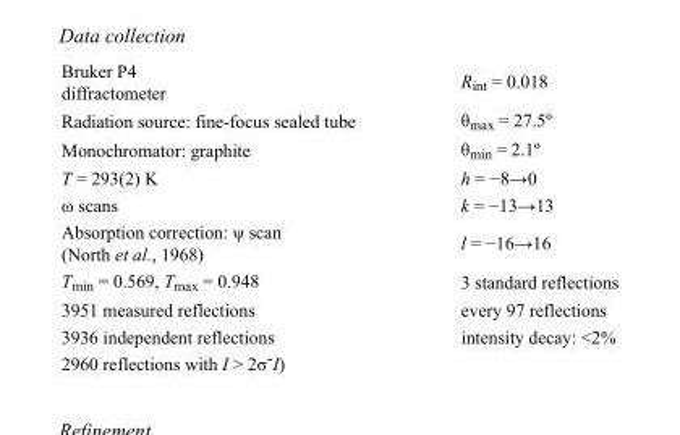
<table><tbody><tr><td>Bruker P4 diffractometer</td><td>R<sub>int</sub> = 0.018</td></tr><tr><td>Radiation source: fine-focus sealed tube</td><td>θ<sub>max</sub> = 27.5º</td></tr><tr><td>Monochromator: graphite</td><td>θ<sub>min</sub> = 2.1º</td></tr><tr><td>T = 293(2) K</td><td>h = −8→0</td></tr><tr><td>ω scans</td><td>k = −13→13</td></tr><tr><td>Absorption correction: ψ scan (North et al., 1968)</td><td>l = −16→16</td></tr><tr><td>T<sub>min</sub> = 0.569, T<sub>max</sub> = 0.948</td><td>3 standard reflections</td></tr><tr><td>3951 measured reflections</td><td>every 97 reflections</td></tr><tr><td>3936 independent reflections</td><td>intensity decay: &lt;2%</td></tr><tr><td>2960 reflections with I &gt; 2σ˘I)</td><td></td></tr></tbody></table>